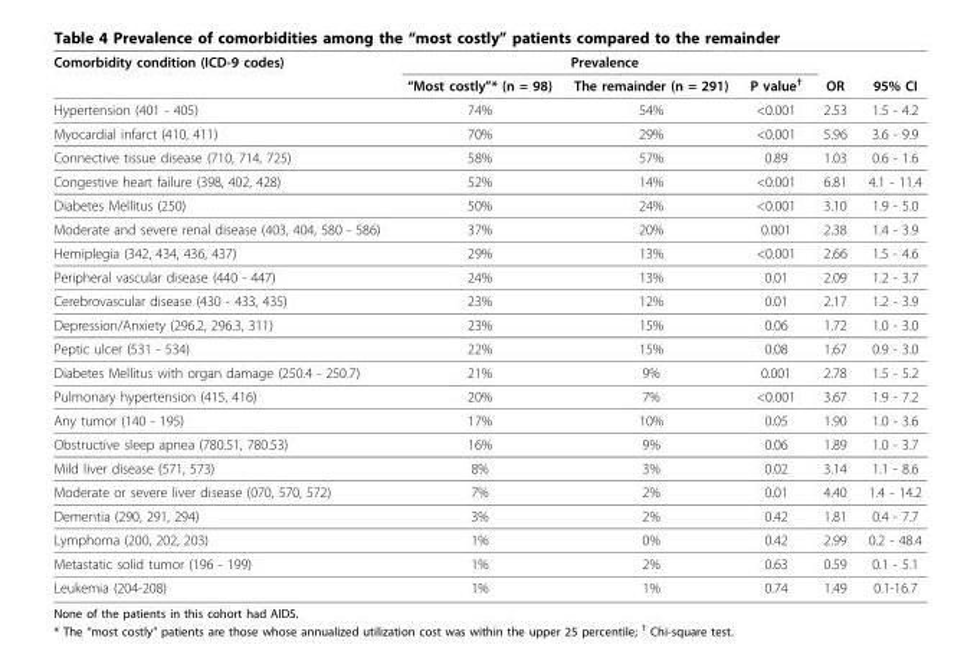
<table><thead><tr><td rowspan="2">Comorbidity condition (ICD-9 codes)</td><td colspan="3">Prevalence</td><td rowspan="2">OR</td><td rowspan="2">95% CI</td></tr><tr><td>“Most costly”* (n = 98)</td><td>The remainder (n = 291)</td><td>P value<sup>†</sup></td></tr></thead><tbody><tr><td>Hypertension (401 - 405)</td><td>74%</td><td>54%</td><td>&lt;0.001</td><td>2.53</td><td>1.5 - 4.2</td></tr><tr><td>Myocardial infarct (410, 411)</td><td>70%</td><td>29%</td><td>&lt;0.001</td><td>5.96</td><td>3.6 - 9.9</td></tr><tr><td>Connective tissue disease (710, 714, 725)</td><td>58%</td><td>57%</td><td>0.89</td><td>1.03</td><td>0.6 - 1.6</td></tr><tr><td>Congestive heart failure (398, 402, 428)</td><td>52%</td><td>14%</td><td>&lt;0.001</td><td>6.81</td><td>4.1 - 11.4</td></tr><tr><td>Diabetes Mellitus (250)</td><td>50%</td><td>24%</td><td>&lt;0.001</td><td>3.10</td><td>1.9 - 5.0</td></tr><tr><td>Moderate and severe renal disease (403, 404, 580 - 586)</td><td>37%</td><td>20%</td><td>0.001</td><td>2.38</td><td>1.4 - 3.9</td></tr><tr><td>Hemiplegia (342, 434, 436, 437)</td><td>29%</td><td>13%</td><td>&lt;0.001</td><td>2.66</td><td>1.5 - 4.6</td></tr><tr><td>Peripheral vascular disease (440 - 447)</td><td>24%</td><td>13%</td><td>0.01</td><td>2.09</td><td>1.2 - 3.7</td></tr><tr><td>Cerebrovascular disease (430 - 433, 435)</td><td>23%</td><td>12%</td><td>0.01</td><td>2.17</td><td>1.2 - 3.9</td></tr><tr><td>Depression/Anxiety (296.2, 296.3, 311)</td><td>23%</td><td>15%</td><td>0.06</td><td>1.72</td><td>1.0 - 3.0</td></tr><tr><td>Peptic ulcer (531 - 534)</td><td>22%</td><td>15%</td><td>0.08</td><td>1.67</td><td>0.9 - 3.0</td></tr><tr><td>Diabetes Mellitus with organ damage (250.4 - 250.7)</td><td>21%</td><td>9%</td><td>0.001</td><td>2.78</td><td>1.5 - 5.2</td></tr><tr><td>Pulmonary hypertension (415, 416)</td><td>20%</td><td>7%</td><td>&lt;0.001</td><td>3.67</td><td>1.9 - 7.2</td></tr><tr><td>Any tumor (140 - 195)</td><td>17%</td><td>10%</td><td>0.05</td><td>1.90</td><td>1.0 - 3.6</td></tr><tr><td>Obstructive sleep apnea (780.51, 780.53)</td><td>16%</td><td>9%</td><td>0.06</td><td>1.89</td><td>1.0 - 3.7</td></tr><tr><td>Mild liver disease (571, 573)</td><td>8%</td><td>3%</td><td>0.02</td><td>3.14</td><td>1.1 - 8.6</td></tr><tr><td>Moderate or severe liver disease (070, 570, 572)</td><td>7%</td><td>2%</td><td>0.01</td><td>4.40</td><td>1.4 - 14.2</td></tr><tr><td>Dementia (290, 291, 294)</td><td>3%</td><td>2%</td><td>0.42</td><td>1.81</td><td>0.4 - 7.7</td></tr><tr><td>Lymphoma (200, 202, 203)</td><td>1%</td><td>0%</td><td>0.42</td><td>2.99</td><td>0.2 - 48.4</td></tr><tr><td>Metastatic solid tumor (196 - 199)</td><td>1%</td><td>2%</td><td>0.63</td><td>0.59</td><td>0.1 - 5.1</td></tr><tr><td>Leukemia (204-208)</td><td>1%</td><td>1%</td><td>0.74</td><td>1.49</td><td>0.1-16.7</td></tr></tbody></table>